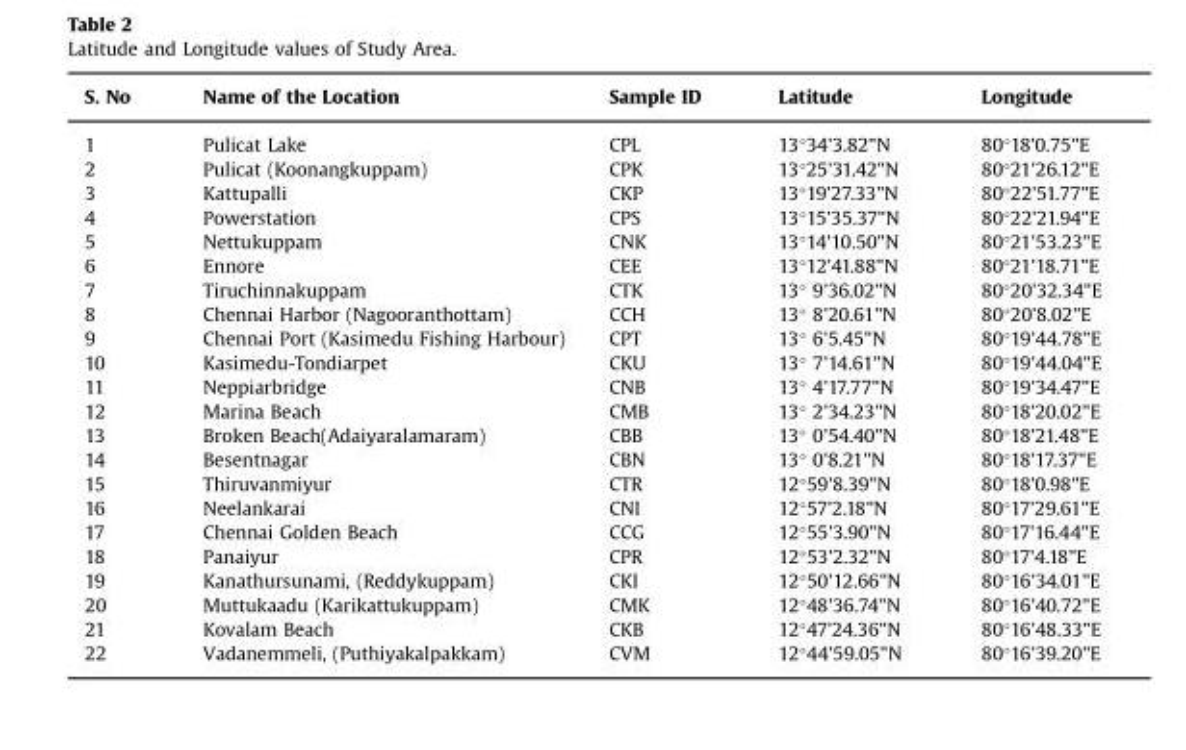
<table><thead><tr><td>S. No</td><td>Name of the Location</td><td>Sample ID</td><td>Latitude</td><td>Longitude</td></tr></thead><tbody><tr><td>1</td><td>Pulicat Lake</td><td>CPL</td><td>13°34&#x27;3.82&quot;N</td><td>80°18&#x27;0.75&quot;E</td></tr><tr><td>2</td><td>Pulicat (Koonangkuppam)</td><td>CPK</td><td>13°25&#x27;31.42&quot;N</td><td>80°21&#x27;26.12&quot;E</td></tr><tr><td>3</td><td>Kattupalli</td><td>CKP</td><td>13°19&#x27;27.33&quot;N</td><td>80°22&#x27;51.77&quot;E</td></tr><tr><td>4</td><td>Powerstation</td><td>CPS</td><td>13°15&#x27;35.37&quot;N</td><td>80°22&#x27;21.94&quot;E</td></tr><tr><td>5</td><td>Nettukuppam</td><td>CNK</td><td>13°14&#x27;10.50&quot;N</td><td>80°21&#x27;53.23&quot;E</td></tr><tr><td>6</td><td>Ennore</td><td>CEE</td><td>13°12&#x27;41.88&quot;N</td><td>80°21&#x27;18.71&quot;E</td></tr><tr><td>7</td><td>Tiruchinnakuppam</td><td>CTK</td><td>13° 9&#x27;36.02&quot;N</td><td>80°20&#x27;32.34&quot;E</td></tr><tr><td>8</td><td>Chennai Harbor (Nagooranthottam)</td><td>CCH</td><td>13° 8&#x27;20.61&quot;N</td><td>80°20&#x27;8.02&quot;E</td></tr><tr><td>9</td><td>Chennai Port (Kasimedu Fishing Harbour)</td><td>CPT</td><td>13° 6&#x27;5.45&quot;N</td><td>80°19&#x27;44.78&quot;E</td></tr><tr><td>10</td><td>Kasimedu-Tondiarpet</td><td>CKU</td><td>13° 7&#x27;14.61&quot;N</td><td>80°19&#x27;44.04&quot;E</td></tr><tr><td>11</td><td>Neppiarbridge</td><td>CNB</td><td>13° 4&#x27;17.77&quot;N</td><td>80°19&#x27;34.47&quot;E</td></tr><tr><td>12</td><td>Marina Beach</td><td>CMB</td><td>13° 2&#x27;34.23&quot;N</td><td>80°18&#x27;20.02&quot;E</td></tr><tr><td>13</td><td>Broken Beach(Adaiyaralamaram)</td><td>CBB</td><td>13° 0&#x27;54.40&quot;N</td><td>80°18&#x27;21.48&quot;E</td></tr><tr><td>14</td><td>Besentnagar</td><td>CBN</td><td>13° 0&#x27;8.21&quot;N</td><td>80°18&#x27;17.37&quot;E</td></tr><tr><td>15</td><td>Thiruvanmiyur</td><td>CTR</td><td>12°59&#x27;8.39&quot;N</td><td>80°18&#x27;0.98&quot;E</td></tr><tr><td>16</td><td>Neelankarai</td><td>CNI</td><td>12°57&#x27;2.18&quot;N</td><td>80°17&#x27;29.61&quot;E</td></tr><tr><td>17</td><td>Chennai Golden Beach</td><td>CCG</td><td>12°55&#x27;3.90&quot;N</td><td>80°17&#x27;16.44&quot;E</td></tr><tr><td>18</td><td>Panaiyur</td><td>CPR</td><td>12°53&#x27;2.32&quot;N</td><td>80°17&#x27;4.18&quot;E</td></tr><tr><td>19</td><td>Kanathursunami, (Reddykuppam)</td><td>CKI</td><td>12°50&#x27;12.66&quot;N</td><td>80°16&#x27;34.01&quot;E</td></tr><tr><td>20</td><td>Muttukaadu (Karikattukuppam)</td><td>CMK</td><td>12°48&#x27;36.74&quot;N</td><td>80°16&#x27;40.72&quot;E</td></tr><tr><td>21</td><td>Kovalam Beach</td><td>CKB</td><td>12°47&#x27;24.36&quot;N</td><td>80°16&#x27;48.33&quot;E</td></tr><tr><td>22</td><td>Vadanemmeli, (Puthiyakalpakkam)</td><td>CVM</td><td>12°44&#x27;59.05&quot;N</td><td>80°16&#x27;39.20&quot;E</td></tr></tbody></table>